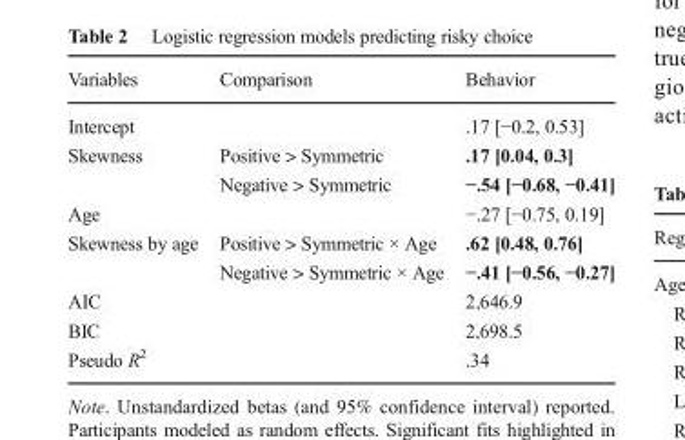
<table><thead><tr><td>Variables</td><td>Comparison</td><td>Behavior</td></tr></thead><tbody><tr><td>Intercept</td><td></td><td>.17 [−0.2, 0.53]</td></tr><tr><td rowspan="2">Skewness</td><td>Positive &gt; Symmetric</td><td>.17 [0.04, 0.3]</td></tr><tr><td>Negative &gt; Symmetric</td><td>−.54 [−0.68, −0.41]</td></tr><tr><td>Age</td><td></td><td>−.27 [−0.75, 0.19]</td></tr><tr><td rowspan="2">Skewness by age</td><td>Positive &gt; Symmetric × Age</td><td>.62 [0.48, 0.76]</td></tr><tr><td>Negative &gt; Symmetric × Age</td><td>−.41 [−0.56, −0.27]</td></tr><tr><td>AIC</td><td></td><td>2,646.9</td></tr><tr><td>BIC</td><td></td><td>2,698.5</td></tr><tr><td>Pseudo R<sup>2</sup></td><td></td><td>.34</td></tr></tbody></table>